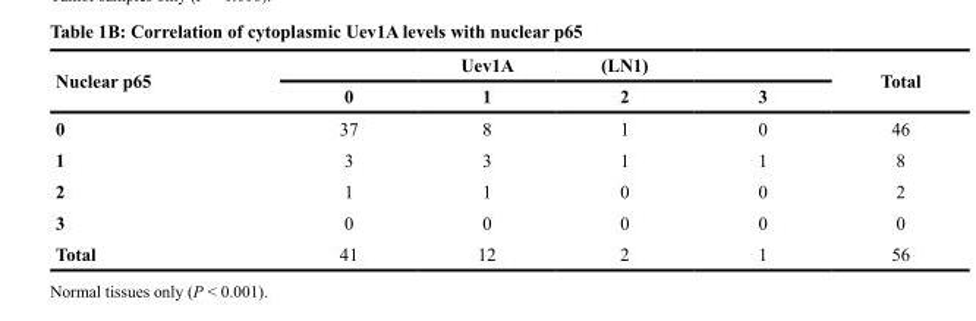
<table><thead><tr><td rowspan="2">Nuclear p65</td><td rowspan="2">0</td><td rowspan="2">Uev1A 1</td><td rowspan="2">(LN1) 2</td><td rowspan="2">3</td><td rowspan="2">Total</td></tr><tr></tr></thead><tbody><tr><td>0</td><td>37</td><td>8</td><td>1</td><td>0</td><td>46</td></tr><tr><td>1</td><td>3</td><td>3</td><td>1</td><td>1</td><td>8</td></tr><tr><td>2</td><td>1</td><td>1</td><td>0</td><td>0</td><td>2</td></tr><tr><td>3</td><td>0</td><td>0</td><td>0</td><td>0</td><td>0</td></tr><tr><td>Total</td><td>41</td><td>12</td><td>2</td><td>1</td><td>56</td></tr></tbody></table>